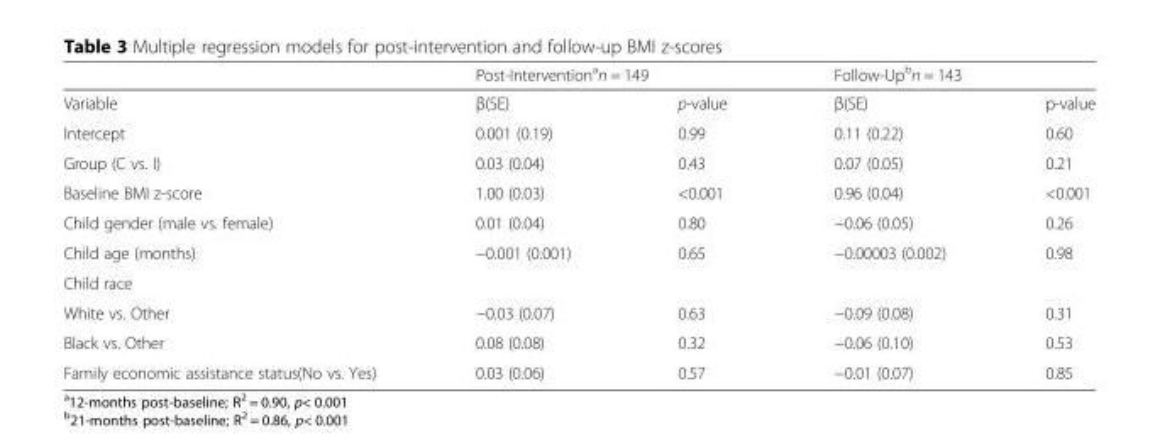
<table><thead><tr><td rowspan="2">Variable</td><td colspan="2">Post-Intervention<sup>a</sup>n = 149</td><td colspan="2">Follow-Up<sup>b</sup>n = 143</td></tr><tr><td>β(SE)</td><td>p-value</td><td>β(SE)</td><td>p-value</td></tr></thead><tbody><tr><td>Intercept</td><td>0.001 (0.19)</td><td>0.99</td><td>0.11 (0.22)</td><td>0.60</td></tr><tr><td>Group (C vs. I)</td><td>0.03 (0.04)</td><td>0.43</td><td>0.07 (0.05)</td><td>0.21</td></tr><tr><td>Baseline BMI z-score</td><td>1.00 (0.03)</td><td>&lt;0.001</td><td>0.96 (0.04)</td><td>&lt;0.001</td></tr><tr><td>Child gender (male vs. female)</td><td>0.01 (0.04)</td><td>0.80</td><td>−0.06 (0.05)</td><td>0.26</td></tr><tr><td>Child age (months)</td><td>−0.001 (0.001)</td><td>0.65</td><td>−0.00003 (0.002)</td><td>0.98</td></tr><tr><td colspan="5">Child race</td></tr><tr><td>White vs. Other</td><td>−0.03 (0.07)</td><td>0.63</td><td>−0.09 (0.08)</td><td>0.31</td></tr><tr><td>Black vs. Other</td><td>0.08 (0.08)</td><td>0.32</td><td>−0.06 (0.10)</td><td>0.53</td></tr><tr><td>Family economic assistance status(No vs. Yes)</td><td>0.03 (0.06)</td><td>0.57</td><td>−0.01 (0.07)</td><td>0.85</td></tr></tbody></table>